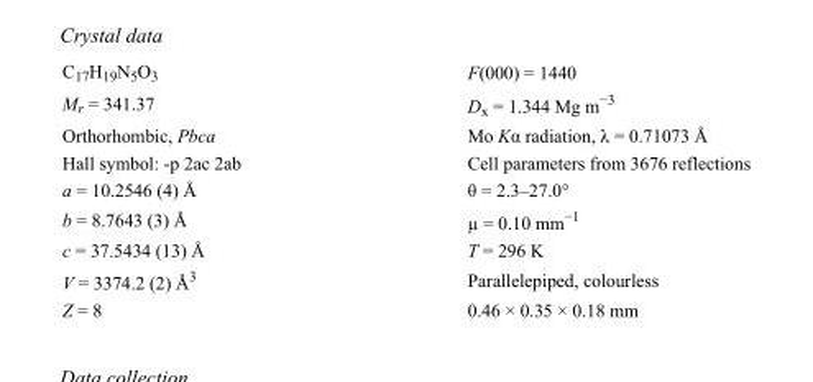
<table><tbody><tr><td>C<sub>17</sub>H<sub>19</sub>N<sub>5</sub>O<sub>3</sub></td><td>F(000) = 1440</td></tr><tr><td>M<sub>r</sub> = 341.37</td><td>D<sub>x</sub> = 1.344 Mg m<sup>−3</sup></td></tr><tr><td>Orthorhombic, Pbca</td><td>Mo Kα radiation, λ = 0.71073 Å</td></tr><tr><td>Hall symbol: -p 2ac 2ab</td><td>Cell parameters from 3676 reflections</td></tr><tr><td>a = 10.2546 (4) Å</td><td>θ = 2.3–27.0°</td></tr><tr><td>b = 8.7643 (3) Å</td><td>µ = 0.10 mm<sup>−1</sup></td></tr><tr><td>c = 37.5434 (13) Å</td><td>T = 296 K</td></tr><tr><td>V = 3374.2 (2) Å<sup>3</sup></td><td>Parallelepiped, colourless</td></tr><tr><td>Z = 8</td><td>0.46 × 0.35 × 0.18 mm</td></tr></tbody></table>